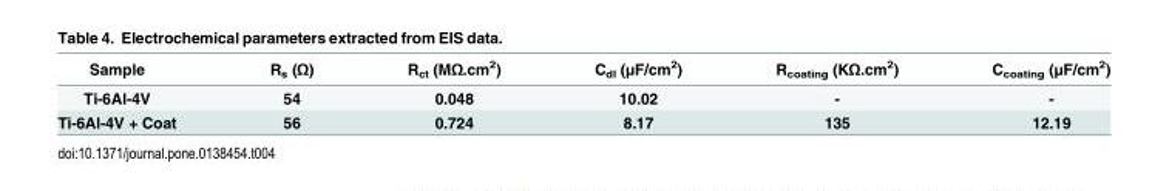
<table><thead><tr><td>Sample</td><td>R<sub>s</sub> (Ω)</td><td>R<sub>ct</sub> (MΩ.cm<sup>2</sup>)</td><td>C<sub>dl</sub> (μF/cm<sup>2</sup>)</td><td>R<sub>coating</sub> (KΩ.cm<sup>2</sup>)</td><td>C<sub>coating</sub> (μF/cm<sup>2</sup>)</td></tr></thead><tbody><tr><td>Ti-6Al-4V</td><td>54</td><td>0.048</td><td>10.02</td><td>-</td><td>-</td></tr><tr><td>Ti-6Al-4V + Coat</td><td>56</td><td>0.724</td><td>8.17</td><td>135</td><td>12.19</td></tr></tbody></table>